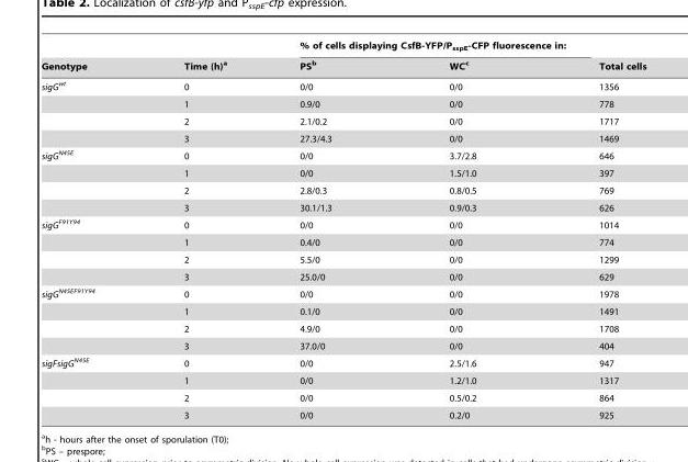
<table><thead><tr><td rowspan="2">Genotype</td><td rowspan="2">Time (h)<sup>a</sup></td><td colspan="2">% of cells displaying CsfB-YFP/P<sub>sspE</sub>-CFP fluorescence in:</td><td rowspan="2">Total cells</td></tr><tr><td>PS<sup>b</sup></td><td>WC<sup>c</sup></td></tr></thead><tbody><tr><td rowspan="4">sigG<sup>wt</sup></td><td>0</td><td>0/0</td><td>0/0</td><td>1356</td></tr><tr><td>1</td><td>0.9/0</td><td>0/0</td><td>778</td></tr><tr><td>2</td><td>2.1/0.2</td><td>0/0</td><td>1717</td></tr><tr><td>3</td><td>27.3/4.3</td><td>0/0</td><td>1469</td></tr><tr><td rowspan="4">sigG<sup>N45E</sup></td><td>0</td><td>0/0</td><td>3.7/2.8</td><td>646</td></tr><tr><td>1</td><td>0/0</td><td>1.5/1.0</td><td>397</td></tr><tr><td>2</td><td>2.8/0.3</td><td>0.8/0.5</td><td>769</td></tr><tr><td>3</td><td>30.1/1.3</td><td>0.9/0.3</td><td>626</td></tr><tr><td rowspan="4">sigG<sup>F91Y94</sup></td><td>0</td><td>0/0</td><td>0/0</td><td>1014</td></tr><tr><td>1</td><td>0.4/0</td><td>0/0</td><td>774</td></tr><tr><td>2</td><td>5.5/0</td><td>0/0</td><td>1299</td></tr><tr><td>3</td><td>25.0/0</td><td>0/0</td><td>629</td></tr><tr><td rowspan="4">sigG<sup>N45EF91Y94</sup></td><td>0</td><td>0/0</td><td>0/0</td><td>1978</td></tr><tr><td>1</td><td>0.1/0</td><td>0/0</td><td>1491</td></tr><tr><td>2</td><td>4.9/0</td><td>0/0</td><td>1708</td></tr><tr><td>3</td><td>37.0/0</td><td>0/0</td><td>404</td></tr><tr><td rowspan="4">sigFsigG<sup>N45E</sup></td><td>0</td><td>0/0</td><td>2.5/1.6</td><td>947</td></tr><tr><td>1</td><td>0/0</td><td>1.2/1.0</td><td>1317</td></tr><tr><td>2</td><td>0/0</td><td>0.5/0.2</td><td>864</td></tr><tr><td>3</td><td>0/0</td><td>0.2/0</td><td>925</td></tr></tbody></table>